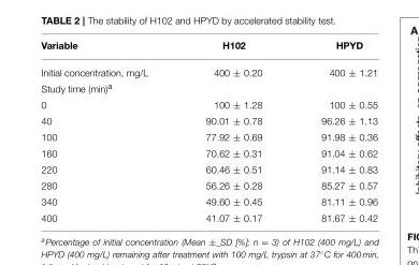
<table><thead><tr><td>Variable</td><td>H102</td><td>HPYD</td></tr></thead><tbody><tr><td>Initial concentration, mg/L</td><td>400 ± 0.20</td><td>400 ± 1.21</td></tr><tr><td colspan="3">Study time (min)<sup>a</sup></td></tr><tr><td>0</td><td>100 ± 1.28</td><td>100 ± 0.55</td></tr><tr><td>40</td><td>90.01 ± 0.78</td><td>96.26 ± 1.13</td></tr><tr><td>100</td><td>77.92 ± 0.69</td><td>91.98 ± 0.36</td></tr><tr><td>160</td><td>70.62 ± 0.31</td><td>91.04 ± 0.62</td></tr><tr><td>220</td><td>60.46 ± 0.51</td><td>91.14 ± 0.83</td></tr><tr><td>280</td><td>56.26 ± 0.28</td><td>85.27 ± 0.57</td></tr><tr><td>340</td><td>49.60 ± 0.45</td><td>81.11 ± 0.96</td></tr><tr><td>400</td><td>41.07 ± 0.17</td><td>81.67 ± 0.42</td></tr></tbody></table>